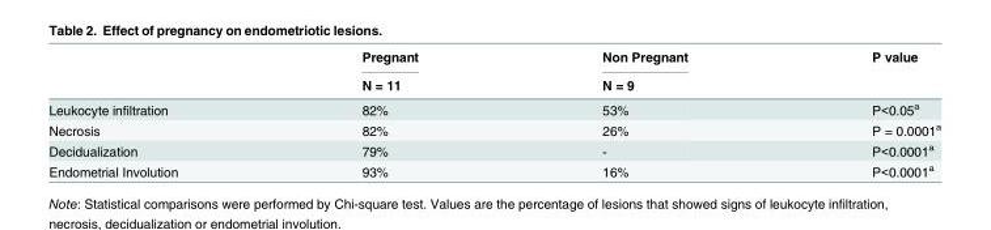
<table><thead><tr><td rowspan="2"></td><td rowspan="2">Pregnant N = 11</td><td rowspan="2">Non Pregnant N = 9</td><td rowspan="2">P value</td></tr><tr></tr></thead><tbody><tr><td>Leukocyte infiltration</td><td>82%</td><td>53%</td><td>P&lt;0.05<sup>a</sup></td></tr><tr><td>Necrosis</td><td>82%</td><td>26%</td><td>P = 0.0001<sup>a</sup></td></tr><tr><td>Decidualization</td><td>79%</td><td>-</td><td>P&lt;0.0001<sup>a</sup></td></tr><tr><td>Endometrial Involution</td><td>93%</td><td>16%</td><td>P&lt;0.0001<sup>a</sup></td></tr></tbody></table>